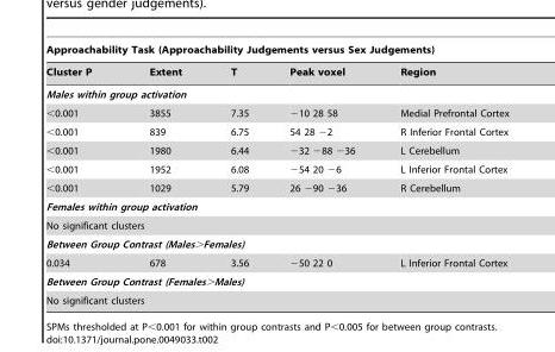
<table><thead><tr><td colspan="5">Approachability Task (Approachability Judgements versus Sex Judgements)</td></tr><tr><td>Cluster P</td><td>Extent</td><td>T</td><td>Peak voxel</td><td>Region</td></tr></thead><tbody><tr><td colspan="5">Males within group activation</td></tr><tr><td>&lt;0.001</td><td>3855</td><td>7.35</td><td>−10 28 58</td><td>Medial Prefrontal Cortex</td></tr><tr><td>&lt;0.001</td><td>839</td><td>6.75</td><td>54 28 −2</td><td>R Inferior Frontal Cortex</td></tr><tr><td>&lt;0.001</td><td>1980</td><td>6.44</td><td>−32 −88 −36</td><td>L Cerebellum</td></tr><tr><td>&lt;0.001</td><td>1952</td><td>6.08</td><td>−54 20 −6</td><td>L Inferior Frontal Cortex</td></tr><tr><td>&lt;0.001</td><td>1029</td><td>5.79</td><td>26 −90 −36</td><td>R Cerebellum</td></tr><tr><td colspan="5">Females within group activation</td></tr><tr><td colspan="5">No significant clusters</td></tr><tr><td colspan="5">Between Group Contrast (Males&gt;Females)</td></tr><tr><td>0.034</td><td>678</td><td>3.56</td><td>−50 22 0</td><td>L Inferior Frontal Cortex</td></tr><tr><td colspan="5">Between Group Contrast (Females&gt;Males)</td></tr><tr><td colspan="5">No significant clusters</td></tr></tbody></table>